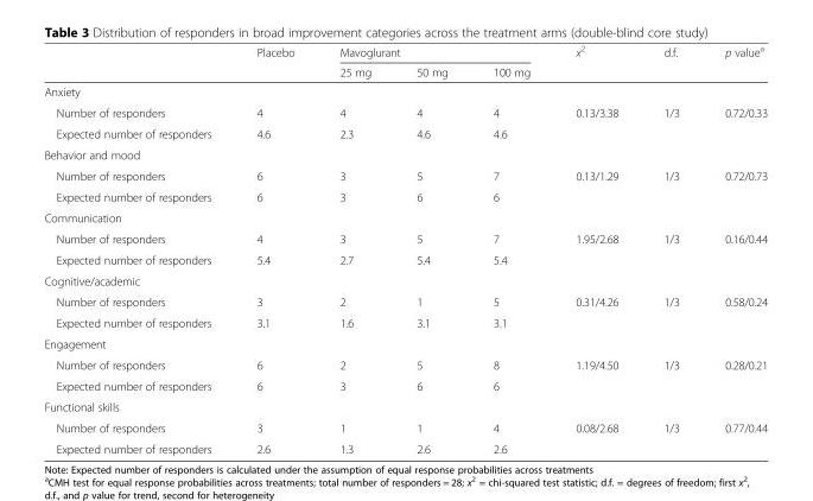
<table><thead><tr><td rowspan="2"></td><td rowspan="2">Placebo</td><td colspan="3">Mavoglurant</td><td rowspan="2">x<sup>2</sup></td><td rowspan="2">d.f.</td><td rowspan="2">p value<sup>a</sup></td></tr><tr><td>25 mg</td><td>50 mg</td><td>100 mg</td></tr></thead><tbody><tr><td colspan="8">Anxiety</td></tr><tr><td>Number of responders</td><td>4</td><td>4</td><td>4</td><td>4</td><td rowspan="2">0.13/3.38</td><td rowspan="2">1/3</td><td rowspan="2">0.72/0.33</td></tr><tr><td>Expected number of responders</td><td>4.6</td><td>2.3</td><td>4.6</td><td>4.6</td></tr><tr><td colspan="8">Behavior and mood</td></tr><tr><td>Number of responders</td><td>6</td><td>3</td><td>5</td><td>7</td><td rowspan="2">0.13/1.29</td><td rowspan="2">1/3</td><td rowspan="2">0.72/0.73</td></tr><tr><td>Expected number of responders</td><td>6</td><td>3</td><td>6</td><td>6</td></tr><tr><td colspan="8">Communication</td></tr><tr><td>Number of responders</td><td>4</td><td>3</td><td>5</td><td>7</td><td rowspan="2">1.95/2.68</td><td rowspan="2">1/3</td><td rowspan="2">0.16/0.44</td></tr><tr><td>Expected number of responders</td><td>5.4</td><td>2.7</td><td>5.4</td><td>5.4</td></tr><tr><td colspan="8">Cognitive/academic</td></tr><tr><td>Number of responders</td><td>3</td><td>2</td><td>1</td><td>5</td><td rowspan="2">0.31/4.26</td><td rowspan="2">1/3</td><td rowspan="2">0.58/0.24</td></tr><tr><td>Expected number of responders</td><td>3.1</td><td>1.6</td><td>3.1</td><td>3.1</td></tr><tr><td colspan="8">Engagement</td></tr><tr><td>Number of responders</td><td>6</td><td>2</td><td>5</td><td>8</td><td rowspan="2">1.19/4.50</td><td rowspan="2">1/3</td><td rowspan="2">0.28/0.21</td></tr><tr><td>Expected number of responders</td><td>6</td><td>3</td><td>6</td><td>6</td></tr><tr><td colspan="8">Functional skills</td></tr><tr><td>Number of responders</td><td>3</td><td>1</td><td>1</td><td>4</td><td rowspan="2">0.08/2.68</td><td rowspan="2">1/3</td><td rowspan="2">0.77/0.44</td></tr><tr><td>Expected number of responders</td><td>2.6</td><td>1.3</td><td>2.6</td><td>2.6</td></tr></tbody></table>